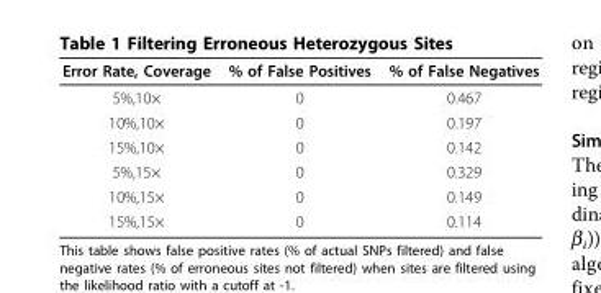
<table><thead><tr><td>Error Rate, Coverage</td><td>% of False Positives</td><td>% of False Negatives</td></tr></thead><tbody><tr><td>5%,10×</td><td>0</td><td>0.467</td></tr><tr><td>10%,10×</td><td>0</td><td>0.197</td></tr><tr><td>15%,10×</td><td>0</td><td>0.142</td></tr><tr><td>5%,15×</td><td>0</td><td>0.329</td></tr><tr><td>10%,15×</td><td>0</td><td>0.149</td></tr><tr><td>15%,15×</td><td>0</td><td>0.114</td></tr></tbody></table>